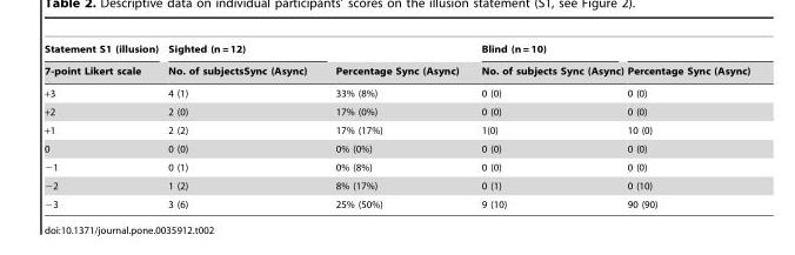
<table><thead><tr><td rowspan="2">Statement S1 (illusion) 7-point Likert scale</td><td rowspan="2">Sighted (n = 12) No. of subjectsSync (Async)</td><td rowspan="2">Percentage Sync (Async)</td><td rowspan="2">Blind (n = 10) No. of subjects Sync (Async)</td><td rowspan="2">Percentage Sync (Async)</td></tr><tr></tr></thead><tbody><tr><td>+3</td><td>4 (1)</td><td>33% (8%)</td><td>0 (0)</td><td>0 (0)</td></tr><tr><td>+2</td><td>2 (0)</td><td>17% (0%)</td><td>0 (0)</td><td>0 (0)</td></tr><tr><td>+1</td><td>2 (2)</td><td>17% (17%)</td><td>1(0)</td><td>10 (0)</td></tr><tr><td>0</td><td>0 (0)</td><td>0% (0%)</td><td>0 (0)</td><td>0 (0)</td></tr><tr><td>−1</td><td>0 (1)</td><td>0% (8%)</td><td>0 (0)</td><td>0 (0)</td></tr><tr><td>−2</td><td>1 (2)</td><td>8% (17%)</td><td>0 (1)</td><td>0 (10)</td></tr><tr><td>−3</td><td>3 (6)</td><td>25% (50%)</td><td>9 (10)</td><td>90 (90)</td></tr></tbody></table>